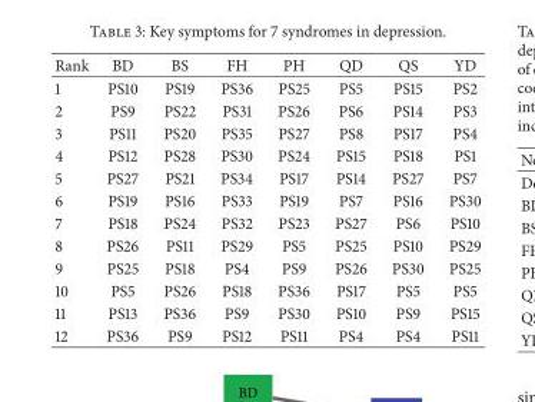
<table><thead><tr><td>Rank</td><td>BD</td><td>BS</td><td>FH</td><td>PH</td><td>QD</td><td>QS</td><td>YD</td></tr></thead><tbody><tr><td>1</td><td>PS10</td><td>PS19</td><td>PS36</td><td>PS25</td><td>PS5</td><td>PS15</td><td>PS2</td></tr><tr><td>2</td><td>PS9</td><td>PS22</td><td>PS31</td><td>PS26</td><td>PS6</td><td>PS14</td><td>PS3</td></tr><tr><td>3</td><td>PS11</td><td>PS20</td><td>PS35</td><td>PS27</td><td>PS8</td><td>PS17</td><td>PS4</td></tr><tr><td>4</td><td>PS12</td><td>PS28</td><td>PS30</td><td>PS24</td><td>PS15</td><td>PS18</td><td>PS1</td></tr><tr><td>5</td><td>PS27</td><td>PS21</td><td>PS34</td><td>PS17</td><td>PS14</td><td>PS27</td><td>PS7</td></tr><tr><td>6</td><td>PS19</td><td>PS16</td><td>PS33</td><td>PS19</td><td>PS7</td><td>PS16</td><td>PS30</td></tr><tr><td>7</td><td>PS18</td><td>PS24</td><td>PS32</td><td>PS23</td><td>PS27</td><td>PS6</td><td>PS10</td></tr><tr><td>8</td><td>PS26</td><td>PS11</td><td>PS29</td><td>PS5</td><td>PS25</td><td>PS10</td><td>PS29</td></tr><tr><td>9</td><td>PS25</td><td>PS18</td><td>PS4</td><td>PS9</td><td>PS26</td><td>PS30</td><td>PS25</td></tr><tr><td>10</td><td>PS5</td><td>PS26</td><td>PS18</td><td>PS36</td><td>PS17</td><td>PS5</td><td>PS5</td></tr><tr><td>11</td><td>PS13</td><td>PS36</td><td>PS9</td><td>PS30</td><td>PS10</td><td>PS9</td><td>PS15</td></tr><tr><td>12</td><td>PS36</td><td>PS9</td><td>PS12</td><td>PS11</td><td>PS4</td><td>PS4</td><td>PS11</td></tr></tbody></table>